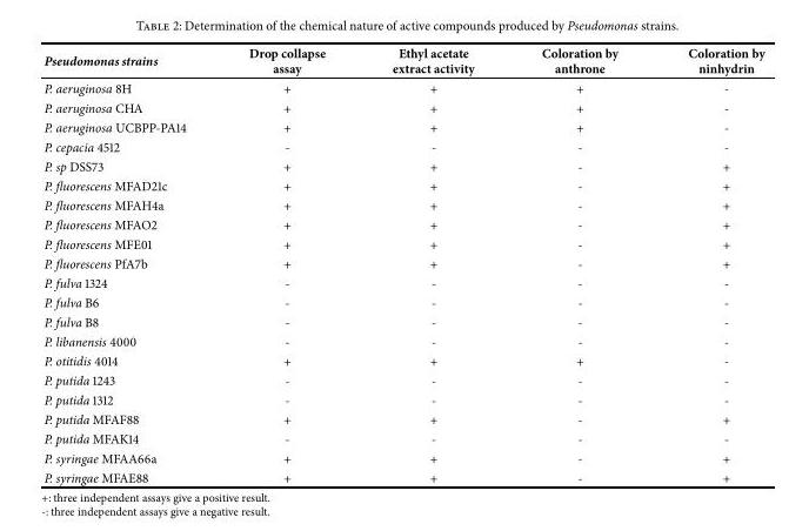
<table><thead><tr><td>Pseudomonas strains</td><td>Drop collapse assay</td><td>Ethyl acetate extract activity</td><td>Coloration by anthrone</td><td>Coloration by ninhydrin</td></tr></thead><tbody><tr><td>P. aeruginosa 8H</td><td>+</td><td>+</td><td>+</td><td>-</td></tr><tr><td>P. aeruginosa CHA</td><td>+</td><td>+</td><td>+</td><td>-</td></tr><tr><td>P. aeruginosa UCBPP-PA14</td><td>+</td><td>+</td><td>+</td><td>-</td></tr><tr><td>P. cepacia 4512</td><td>-</td><td>-</td><td>-</td><td>-</td></tr><tr><td>P. sp DSS73</td><td>+</td><td>+</td><td>-</td><td>+</td></tr><tr><td>P. fluorescens MFAD21c</td><td>+</td><td>+</td><td>-</td><td>+</td></tr><tr><td>P. fluorescens MFAH4a</td><td>+</td><td>+</td><td>-</td><td>+</td></tr><tr><td>P. fluorescens MFAO2</td><td>+</td><td>+</td><td>-</td><td>+</td></tr><tr><td>P. fluorescens MFE01</td><td>+</td><td>+</td><td>-</td><td>+</td></tr><tr><td>P. fluorescens PfA7b</td><td>+</td><td>+</td><td>-</td><td>+</td></tr><tr><td>P. fulva 1324</td><td>-</td><td>-</td><td>-</td><td>-</td></tr><tr><td>P. fulva B6</td><td>-</td><td>-</td><td>-</td><td>-</td></tr><tr><td>P. fulva B8</td><td>-</td><td>-</td><td>-</td><td>-</td></tr><tr><td>P. libanensis 4000</td><td>-</td><td>-</td><td>-</td><td>-</td></tr><tr><td>P. otitidis 4014</td><td>+</td><td>+</td><td>+</td><td>-</td></tr><tr><td>P. putida 1243</td><td>-</td><td>-</td><td>-</td><td>-</td></tr><tr><td>P. putida 1312</td><td>-</td><td>-</td><td>-</td><td>-</td></tr><tr><td>P. putida MFAF88</td><td>+</td><td>+</td><td>-</td><td>+</td></tr><tr><td>P. putida MFAK14</td><td>-</td><td>-</td><td>-</td><td>-</td></tr><tr><td>P. syringae MFAA66a</td><td>+</td><td>+</td><td>-</td><td>+</td></tr><tr><td>P. syringae MFAE88</td><td>+</td><td>+</td><td>-</td><td>+</td></tr></tbody></table>